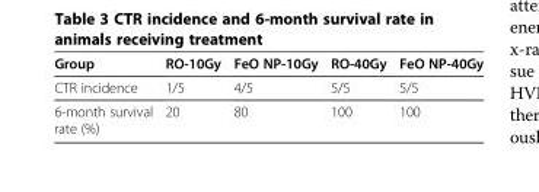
<table><thead><tr><td>Group</td><td>RO-10Gy</td><td>FeO NP-10Gy</td><td>RO-40Gy</td><td>FeO NP-40Gy</td></tr></thead><tbody><tr><td>CTR incidence</td><td>1/5</td><td>4/5</td><td>5/5</td><td>5/5</td></tr><tr><td>6-month survival rate (%)</td><td>20</td><td>80</td><td>100</td><td>100</td></tr></tbody></table>